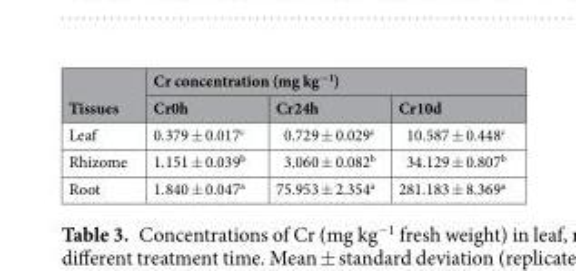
<table><thead><tr><td rowspan="2">Tissues</td><td colspan="3">Cr concentration (mg kg<sup>−1</sup>)</td></tr><tr><td>Cr0h</td><td>Cr24h</td><td>Cr10d</td></tr></thead><tbody><tr><td>Leaf</td><td>0.379 ± 0.017<sup>c</sup></td><td>0.729 ± 0.029<sup>c</sup></td><td>10.587 ± 0.448<sup>c</sup></td></tr><tr><td>Rhizome</td><td>1.151 ± 0.039<sup>b</sup></td><td>3.060 ± 0.082<sup>b</sup></td><td>34.129 ± 0.807<sup>b</sup></td></tr><tr><td>Root</td><td>1.840 ± 0.047<sup>a</sup></td><td>75.953 ± 2.354<sup>a</sup></td><td>281.183 ± 8.369<sup>a</sup></td></tr></tbody></table>